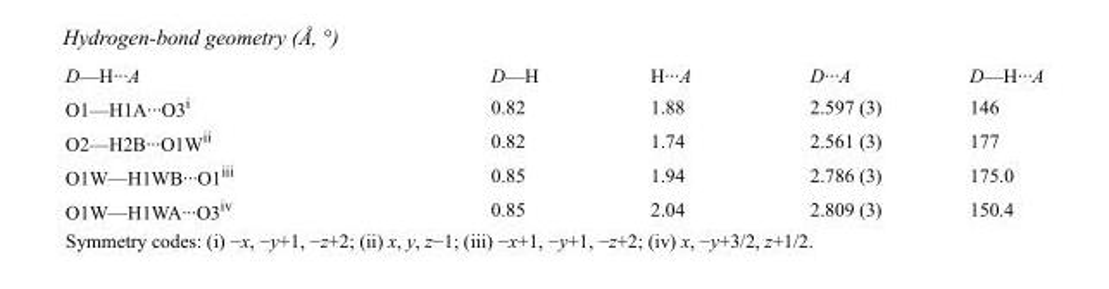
<table><tbody><tr><td>D—H···A</td><td>D—H</td><td>H···A</td><td>D···A</td><td>D—H···A</td></tr><tr><td>O1—H1A···O3<sup>i</sup></td><td>0.82</td><td>1.88</td><td>2.597 (3)</td><td>146</td></tr><tr><td>O2—H2B···O1W<sup>ii</sup></td><td>0.82</td><td>1.74</td><td>2.561 (3)</td><td>177</td></tr><tr><td>O1W—H1WB···O1<sup>iii</sup></td><td>0.85</td><td>1.94</td><td>2.786 (3)</td><td>175.0</td></tr><tr><td>O1W—H1WA···O3<sup>iv</sup></td><td>0.85</td><td>2.04</td><td>2.809 (3)</td><td>150.4</td></tr></tbody></table>